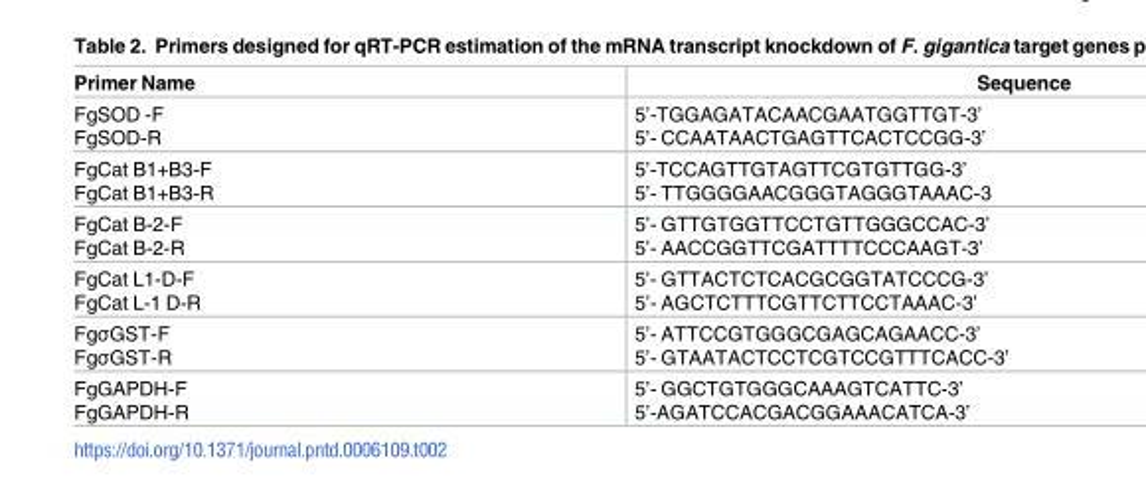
<table><thead><tr><td>Primer Name</td><td>Sequence</td></tr></thead><tbody><tr><td>FgSOD -F FgSOD-R</td><td>5’-TGGAGATACAACGAATGGTTGT-3’ 5’- CCAATAACTGAGTTCACTCCGG-3’</td></tr><tr><td>FgCat B1+B3-F FgCat B1+B3-R</td><td>5’-TCCAGTTGTAGTTCGTGTTGG-3’ 5’- TTGGGGAACGGGTAGGGTAAAC-3</td></tr><tr><td>FgCat B-2-F FgCat B-2-R</td><td>5’- GTTGTGGTTCCTGTTGGGCCAC-3’ 5’- AACCGGTTCGATTTTCCCAAGT-3’</td></tr><tr><td>FgCat L1-D-F FgCat L-1 D-R</td><td>5’- GTTACTCTCACGCGGTATCCCG-3’ 5’- AGCTCTTTCGTTCTTCCTAAAC-3’</td></tr><tr><td>FgσGST-F FgσGST-R</td><td>5’- ATTCCGTGGGCGAGCAGAACC-3’ 5’- GTAATACTCCTCGTCCGTTTCACC-3’</td></tr><tr><td>FgGAPDH-F FgGAPDH-R</td><td>5’- GGCTGTGGGCAAAGTCATTC-3’ 5’-AGATCCACGACGGAAACATCA-3’</td></tr></tbody></table>